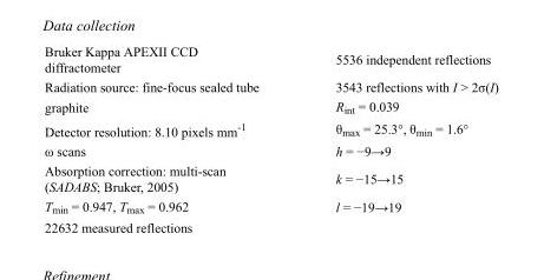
<table><tbody><tr><td>Bruker Kappa APEXII CCD diffractometer</td><td>5536 independent reflections</td></tr><tr><td>Radiation source: fine-focus sealed tube</td><td>3543 reflections with I &gt; 2σ(I)</td></tr><tr><td>graphite</td><td>R<sub>int</sub> = 0.039</td></tr><tr><td>Detector resolution: 8.10 pixels mm<sup>-1</sup></td><td>θ<sub>max</sub> = 25.3°, θ<sub>min</sub> = 1.6°</td></tr><tr><td>ω scans</td><td>h = −9→9</td></tr><tr><td>Absorption correction: multi-scan (SADABS; Bruker, 2005)</td><td>k = −15→15</td></tr><tr><td>T<sub>min</sub> = 0.947, T<sub>max</sub> = 0.962</td><td>l = −19→19</td></tr><tr><td>22632 measured reflections</td><td></td></tr></tbody></table>